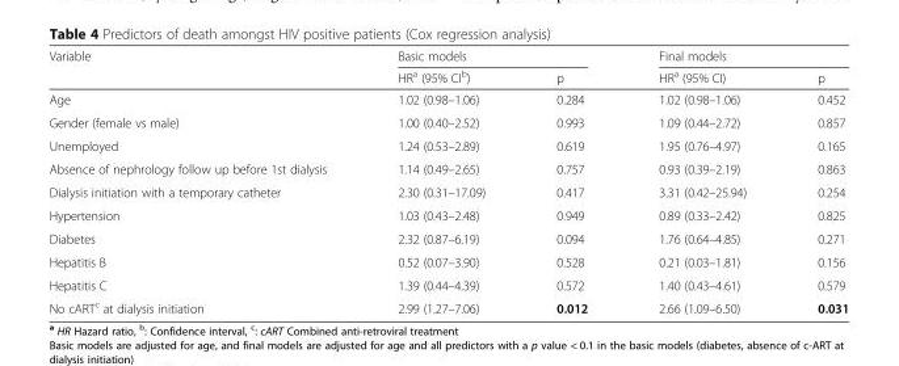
<table><thead><tr><td rowspan="2">Variable</td><td colspan="2">Basic models</td><td colspan="2">Final models</td></tr><tr><td>HR<sup>a</sup> (95% CI<sup>b</sup>)</td><td>p</td><td>HR<sup>a</sup> (95% CI)</td><td>p</td></tr></thead><tbody><tr><td>Age</td><td>1.02 (0.98–1.06)</td><td>0.284</td><td>1.02 (0.98–1.06)</td><td>0.452</td></tr><tr><td>Gender (female vs male)</td><td>1.00 (0.40–2.52)</td><td>0.993</td><td>1.09 (0.44–2.72)</td><td>0.857</td></tr><tr><td>Unemployed</td><td>1.24 (0.53–2.89)</td><td>0.619</td><td>1.95 (0.76–4.97)</td><td>0.165</td></tr><tr><td>Absence of nephrology follow up before 1st dialysis</td><td>1.14 (0.49–2.65)</td><td>0.757</td><td>0.93 (0.39–2.19)</td><td>0.863</td></tr><tr><td>Dialysis initiation with a temporary catheter</td><td>2.30 (0.31–17.09)</td><td>0.417</td><td>3.31 (0.42–25.94)</td><td>0.254</td></tr><tr><td>Hypertension</td><td>1.03 (0.43–2.48)</td><td>0.949</td><td>0.89 (0.33–2.42)</td><td>0.825</td></tr><tr><td>Diabetes</td><td>2.32 (0.87–6.19)</td><td>0.094</td><td>1.76 (0.64–4.85)</td><td>0.271</td></tr><tr><td>Hepatitis B</td><td>0.52 (0.07–3.90)</td><td>0.528</td><td>0.21 (0.03–1.81)</td><td>0.156</td></tr><tr><td>Hepatitis C</td><td>1.39 (0.44–4.39)</td><td>0.572</td><td>1.40 (0.43–4.61)</td><td>0.579</td></tr><tr><td>No cART<sup>c</sup> at dialysis initiation</td><td>2.99 (1.27–7.06)</td><td>0.012</td><td>2.66 (1.09–6.50)</td><td>0.031</td></tr></tbody></table>